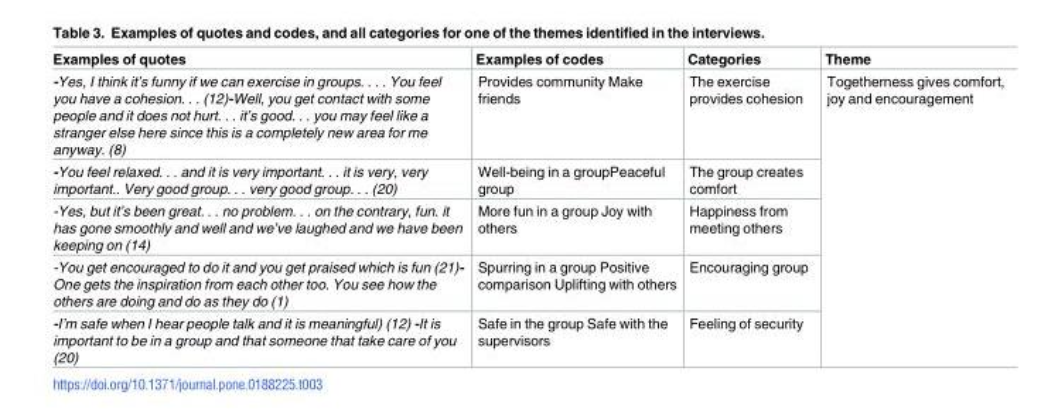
<table><thead><tr><td>Examples of quotes</td><td>Examples of codes</td><td>Categories</td><td>Theme</td></tr></thead><tbody><tr><td>-Yes, I think it’s funny if we can exercise in groups. . . . You feel you have a cohesion. . . (12)-Well, you get contact with some people and it does not hurt. . . it’s good. . . you may feel like a stranger else here since this is a completely new area for me anyway. (8)</td><td>Provides community Make friends</td><td>The exercise provides cohesion</td><td rowspan="5">Togetherness gives comfort, joy and encouragement</td></tr><tr><td>-You feel relaxed. . . and it is very important. . . it is very, very important.. Very good group. . . very good group. . . (20)</td><td>Well-being in a groupPeaceful group</td><td>The group creates comfort</td></tr><tr><td>-Yes, but it’s been great. . . no problem. . . on the contrary, fun. it has gone smoothly and well and we’ve laughed and we have been keeping on (14)</td><td>More fun in a group Joy with others</td><td>Happiness from meeting others</td></tr><tr><td>-You get encouraged to do it and you get praised which is fun (21)- One gets the inspiration from each other too. You see how the others are doing and do as they do (1)</td><td>Spurring in a group Positive comparison Uplifting with others</td><td>Encouraging group</td></tr><tr><td>-I’m safe when I hear people talk and it is meaningful) (12) -It is important to be in a group and that someone that take care of you (20)</td><td>Safe in the group Safe with the supervisors</td><td>Feeling of security</td></tr></tbody></table>